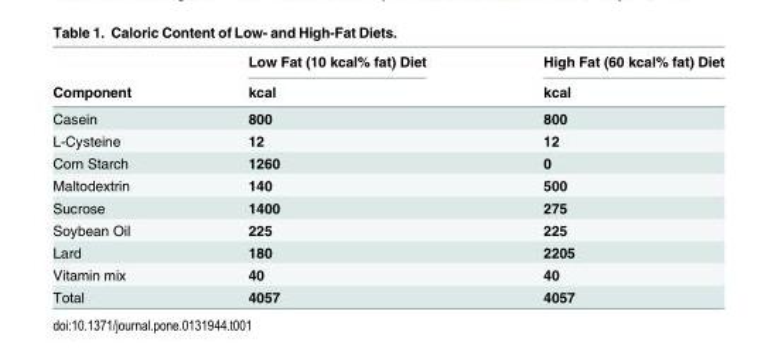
<table><thead><tr><td rowspan="2">Component</td><td rowspan="2">Low Fat (10 kcal% fat) Diet kcal</td><td rowspan="2">High Fat (60 kcal% fat) Diet kcal</td></tr><tr></tr></thead><tbody><tr><td>Casein</td><td>800</td><td>800</td></tr><tr><td>L-Cysteine</td><td>12</td><td>12</td></tr><tr><td>Corn Starch</td><td>1260</td><td>0</td></tr><tr><td>Maltodextrin</td><td>140</td><td>500</td></tr><tr><td>Sucrose</td><td>1400</td><td>275</td></tr><tr><td>Soybean Oil</td><td>225</td><td>225</td></tr><tr><td>Lard</td><td>180</td><td>2205</td></tr><tr><td>Vitamin mix</td><td>40</td><td>40</td></tr><tr><td>Total</td><td>4057</td><td>4057</td></tr></tbody></table>